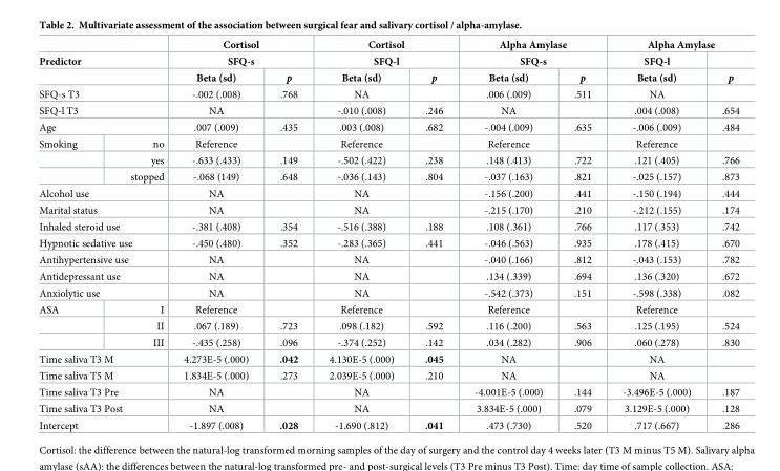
<table><thead><tr><td></td><td></td><td rowspan="2" colspan="2">Cortisol SFQ-s</td><td rowspan="2" colspan="2">Cortisol SFQ-l</td><td rowspan="2" colspan="2">Alpha Amylase SFQ-s</td><td colspan="2">Alpha Amylase</td></tr><tr><td colspan="2">Predictor</td><td rowspan="2">SFQ-l Beta (sd)</td><td rowspan="2">p</td></tr><tr><td></td><td></td><td>Beta (sd)</td><td>p</td><td>Beta (sd)</td><td>p</td><td>Beta (sd)</td><td>p</td></tr></thead><tbody><tr><td colspan="2">SFQ-s T3</td><td>-.002 (.008)</td><td>.768</td><td>NA</td><td></td><td>.006 (.009)</td><td>.511</td><td>NA</td><td></td></tr><tr><td colspan="2">SFQ-l T3</td><td>NA</td><td></td><td>-.010 (.008)</td><td>.246</td><td>NA</td><td></td><td>.004 (.008)</td><td>.654</td></tr><tr><td colspan="2">Age</td><td>.007 (.009)</td><td>.435</td><td>.003 (.008)</td><td>.682</td><td>-.004 (.009)</td><td>.635</td><td>-.006 (.009)</td><td>.484</td></tr><tr><td rowspan="3">Smoking</td><td>no</td><td>Reference</td><td></td><td>Reference</td><td></td><td>Reference</td><td></td><td>Reference</td><td></td></tr><tr><td>yes</td><td>-.633 (.433)</td><td>.149</td><td>-.502 (.422)</td><td>.238</td><td>.148 (.413)</td><td>.722</td><td>.121 (.405)</td><td>.766</td></tr><tr><td>stopped</td><td>-.068 (149)</td><td>.648</td><td>-.036 (.143)</td><td>.804</td><td>-.037 (.163)</td><td>.821</td><td>-.025 (.157)</td><td>.873</td></tr><tr><td colspan="2">Alcohol use</td><td>NA</td><td></td><td>NA</td><td></td><td>-.156 (.200)</td><td>.441</td><td>-.150 (.194)</td><td>.444</td></tr><tr><td colspan="2">Marital status</td><td>NA</td><td></td><td>NA</td><td></td><td>-.215 (.170)</td><td>.210</td><td>-.212 (.155)</td><td>.174</td></tr><tr><td colspan="2">Inhaled steroid use</td><td>-.381 (.408)</td><td>.354</td><td>-.516 (.388)</td><td>.188</td><td>.108 (.361)</td><td>.766</td><td>.117 (.353)</td><td>.742</td></tr><tr><td colspan="2">Hypnotic sedative use</td><td>-.450 (.480)</td><td>.352</td><td>-.283 (.365)</td><td>.441</td><td>-.046 (.563)</td><td>.935</td><td>.178 (.415)</td><td>.670</td></tr><tr><td colspan="2">Antihypertensive use</td><td>NA</td><td></td><td>NA</td><td></td><td>-.040 (.166)</td><td>.812</td><td>-.043 (.153)</td><td>.782</td></tr><tr><td colspan="2">Antidepressant use</td><td>NA</td><td></td><td>NA</td><td></td><td>.134 (.339)</td><td>.694</td><td>.136 (.320)</td><td>.672</td></tr><tr><td colspan="2">Anxiolytic use</td><td>NA</td><td></td><td>NA</td><td></td><td>-.542 (.373)</td><td>.151</td><td>-.598 (.338)</td><td>.082</td></tr><tr><td rowspan="3">ASA</td><td>I</td><td>Reference</td><td></td><td>Reference</td><td></td><td>Reference</td><td></td><td>Reference</td><td></td></tr><tr><td>II</td><td>.067 (.189)</td><td>.723</td><td>.098 (.182)</td><td>.592</td><td>.116 (.200)</td><td>.563</td><td>.125 (.195)</td><td>.524</td></tr><tr><td>III</td><td>-.435 (.258)</td><td>.096</td><td>-.374 (.252)</td><td>.142</td><td>.034 (.282)</td><td>.906</td><td>.060 (.278)</td><td>.830</td></tr><tr><td colspan="2">Time saliva T3 M</td><td>4.273E-5 (.000)</td><td>.042</td><td>4.130E-5 (.000)</td><td>.045</td><td>NA</td><td></td><td>NA</td><td></td></tr><tr><td colspan="2">Time saliva T5 M</td><td>1.834E-5 (.000)</td><td>.273</td><td>2.039E-5 (.000)</td><td>.210</td><td>NA</td><td></td><td>NA</td><td></td></tr><tr><td colspan="2">Time saliva T3 Pre</td><td>NA</td><td></td><td>NA</td><td></td><td>-4.001E-5 (.000)</td><td>.144</td><td>-3.496E-5 (.000)</td><td>.187</td></tr><tr><td colspan="2">Time saliva T3 Post</td><td>NA</td><td></td><td>NA</td><td></td><td>3.834E-5 (.000)</td><td>.079</td><td>3.129E-5 (.000)</td><td>.128</td></tr><tr><td colspan="2">Intercept</td><td>-1.897 (.008)</td><td>.028</td><td>-1.690 (.812)</td><td>.041</td><td>.473 (.730)</td><td>.520</td><td>.717 (.667)</td><td>.286</td></tr></tbody></table>